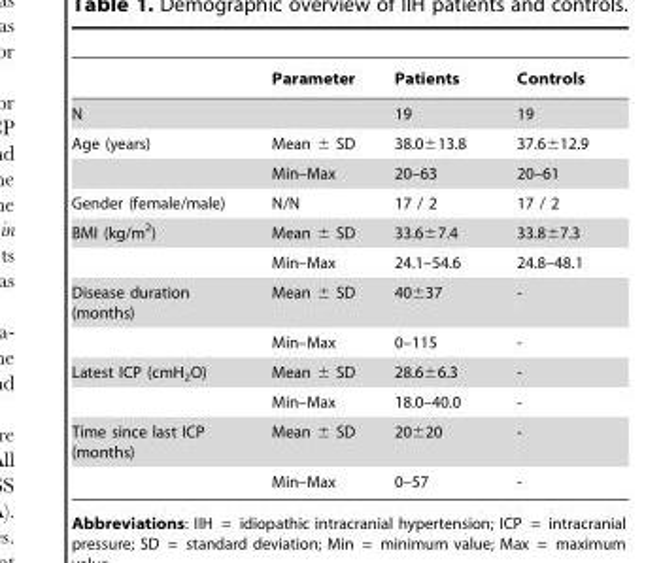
<table><thead><tr><td></td><td>Parameter</td><td>Patients</td><td>Controls</td></tr></thead><tbody><tr><td>N</td><td></td><td>19</td><td>19</td></tr><tr><td rowspan="2">Age (years)</td><td>Mean ± SD</td><td>38.0±13.8</td><td>37.6±12.9</td></tr><tr><td>Min–Max</td><td>20–63</td><td>20–61</td></tr><tr><td>Gender (female/male)</td><td>N/N</td><td>17 / 2</td><td>17 / 2</td></tr><tr><td rowspan="2">BMI (kg/m<sup>2</sup>)</td><td>Mean ± SD</td><td>33.6±7.4</td><td>33.8±7.3</td></tr><tr><td>Min–Max</td><td>24.1–54.6</td><td>24.8–48.1</td></tr><tr><td rowspan="2">Disease duration (months)</td><td>Mean ± SD</td><td>40±37</td><td>-</td></tr><tr><td>Min–Max</td><td>0–115</td><td>-</td></tr><tr><td rowspan="2">Latest ICP (cmH<sub>2</sub>O)</td><td>Mean ± SD</td><td>28.6±6.3</td><td>-</td></tr><tr><td>Min–Max</td><td>18.0–40.0</td><td>-</td></tr><tr><td rowspan="2">Time since last ICP (months)</td><td>Mean ± SD</td><td>20±20</td><td>-</td></tr><tr><td>Min–Max</td><td>0–57</td><td>-</td></tr></tbody></table>